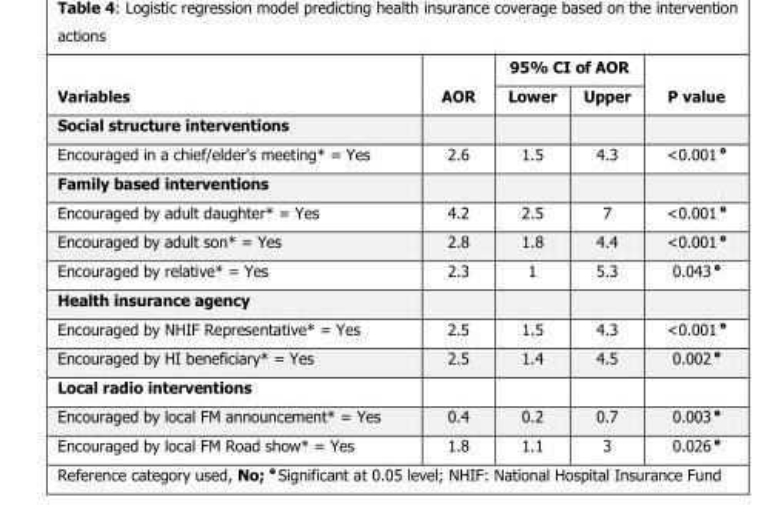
<table><thead><tr><td rowspan="2">Variables</td><td rowspan="2">AOR</td><td colspan="2">95% CI of AOR</td><td rowspan="2">P value</td></tr><tr><td>Lower</td><td>Upper</td></tr></thead><tbody><tr><td colspan="5">Social structure interventions</td></tr><tr><td>Encouraged in a chief/elder&#x27;s meeting* = Yes</td><td>2.6</td><td>1.5</td><td>4.3</td><td>&lt;0.001 ө</td></tr><tr><td colspan="5">Family based interventions</td></tr><tr><td>Encouraged by adult daughter* = Yes</td><td>4.2</td><td>2.5</td><td>7</td><td>&lt;0.001 ө</td></tr><tr><td>Encouraged by adult son* = Yes</td><td>2.8</td><td>1.8</td><td>4.4</td><td>&lt;0.001 ө</td></tr><tr><td>Encouraged by relative* = Yes</td><td>2.3</td><td>1</td><td>5.3</td><td>0.043 ө</td></tr><tr><td colspan="5">Health insurance agency</td></tr><tr><td>Encouraged by NHIF Representative* = Yes</td><td>2.5</td><td>1.5</td><td>4.3</td><td>&lt;0.001 ө</td></tr><tr><td>Encouraged by HI beneficiary* = Yes</td><td>2.5</td><td>1.4</td><td>4.5</td><td>0.002 ө</td></tr><tr><td colspan="5">Local radio interventions</td></tr><tr><td>Encouraged by local FM announcement* = Yes</td><td>0.4</td><td>0.2</td><td>0.7</td><td>0.003 ө</td></tr><tr><td>Encouraged by local FM Road show* = Yes</td><td>1.8</td><td>1.1</td><td>3</td><td>0.026 ө</td></tr></tbody></table>